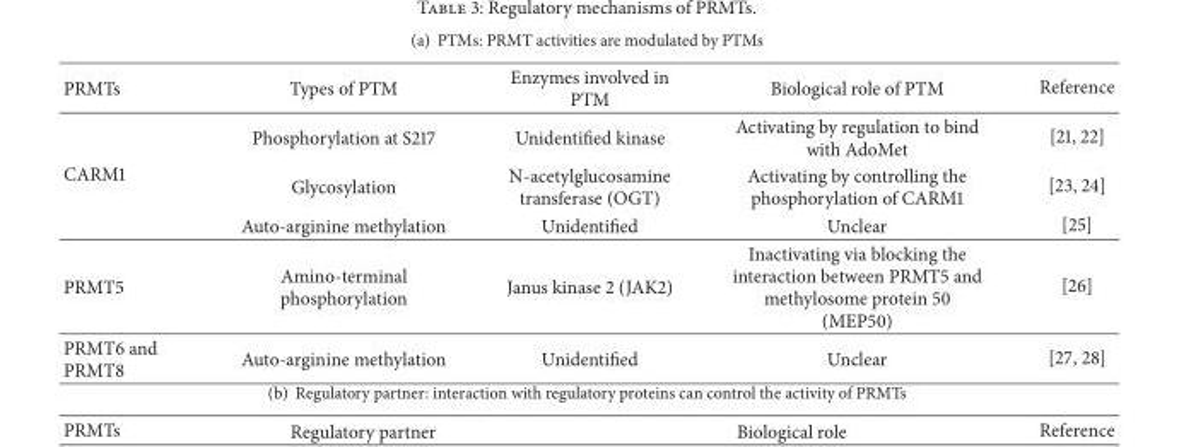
<table><thead><tr><td>PRMTs</td><td>Types of PTM</td><td>Enzymes involved in PTM</td><td>Biological role of PTM</td><td>Reference</td></tr></thead><tbody><tr><td rowspan="3">CARM1</td><td>Phosphorylation at S217</td><td>Unidentified kinase</td><td>Activating by regulation to bind with AdoMet</td><td>[21, 22]</td></tr><tr><td>Glycosylation</td><td>N-acetylglucosamine transferase (OGT)</td><td>Activating by controlling the phosphorylation of CARM1</td><td>[23, 24]</td></tr><tr><td>Auto-arginine methylation</td><td>Unidentified</td><td>Unclear</td><td>[25]</td></tr><tr><td>PRMT5</td><td>Amino-terminal phosphorylation</td><td>Janus kinase 2 (JAK2)</td><td>Inactivating via blocking the interaction between PRMT5 and methylosome protein 50 (MEP50)</td><td>[26]</td></tr><tr><td>PRMT6 and PRMT8</td><td>Auto-arginine methylation</td><td>Unidentified</td><td>Unclear</td><td>[27, 28]</td></tr></tbody></table>